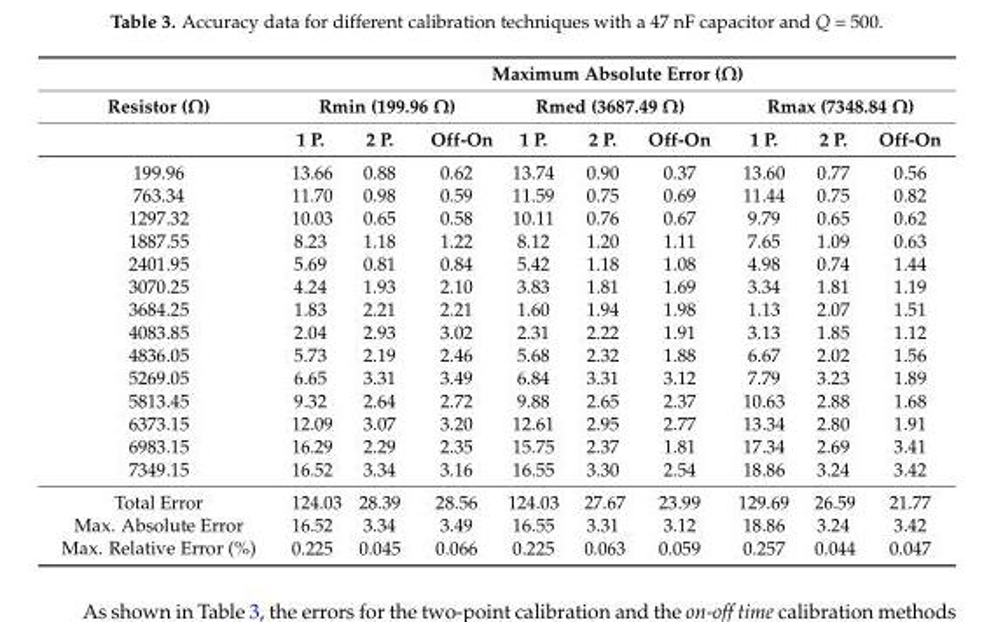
<table><thead><tr><td rowspan="3">Resistor (Ω)</td><td colspan="9">Maximum Absolute Error (Ω)</td></tr><tr><td colspan="3">Rmin (199.96 Ω)</td><td colspan="3">Rmed (3687.49 Ω)</td><td colspan="3">Rmax (7348.84 Ω)</td></tr><tr><td>1 P.</td><td>2 P.</td><td>Off-On</td><td>1 P.</td><td>2 P.</td><td>Off-On</td><td>1 P.</td><td>2 P.</td><td>Off-On</td></tr></thead><tbody><tr><td>199.96</td><td>13.66</td><td>0.88</td><td>0.62</td><td>13.74</td><td>0.90</td><td>0.37</td><td>13.60</td><td>0.77</td><td>0.56</td></tr><tr><td>763.34</td><td>11.70</td><td>0.98</td><td>0.59</td><td>11.59</td><td>0.75</td><td>0.69</td><td>11.44</td><td>0.75</td><td>0.82</td></tr><tr><td>1297.32</td><td>10.03</td><td>0.65</td><td>0.58</td><td>10.11</td><td>0.76</td><td>0.67</td><td>9.79</td><td>0.65</td><td>0.62</td></tr><tr><td>1887.55</td><td>8.23</td><td>1.18</td><td>1.22</td><td>8.12</td><td>1.20</td><td>1.11</td><td>7.65</td><td>1.09</td><td>0.63</td></tr><tr><td>2401.95</td><td>5.69</td><td>0.81</td><td>0.84</td><td>5.42</td><td>1.18</td><td>1.08</td><td>4.98</td><td>0.74</td><td>1.44</td></tr><tr><td>3070.25</td><td>4.24</td><td>1.93</td><td>2.10</td><td>3.83</td><td>1.81</td><td>1.69</td><td>3.34</td><td>1.81</td><td>1.19</td></tr><tr><td>3684.25</td><td>1.83</td><td>2.21</td><td>2.21</td><td>1.60</td><td>1.94</td><td>1.98</td><td>1.13</td><td>2.07</td><td>1.51</td></tr><tr><td>4083.85</td><td>2.04</td><td>2.93</td><td>3.02</td><td>2.31</td><td>2.22</td><td>1.91</td><td>3.13</td><td>1.85</td><td>1.12</td></tr><tr><td>4836.05</td><td>5.73</td><td>2.19</td><td>2.46</td><td>5.68</td><td>2.32</td><td>1.88</td><td>6.67</td><td>2.02</td><td>1.56</td></tr><tr><td>5269.05</td><td>6.65</td><td>3.31</td><td>3.49</td><td>6.84</td><td>3.31</td><td>3.12</td><td>7.79</td><td>3.23</td><td>1.89</td></tr><tr><td>5813.45</td><td>9.32</td><td>2.64</td><td>2.72</td><td>9.88</td><td>2.65</td><td>2.37</td><td>10.63</td><td>2.88</td><td>1.68</td></tr><tr><td>6373.15</td><td>12.09</td><td>3.07</td><td>3.20</td><td>12.61</td><td>2.95</td><td>2.77</td><td>13.34</td><td>2.80</td><td>1.91</td></tr><tr><td>6983.15</td><td>16.29</td><td>2.29</td><td>2.35</td><td>15.75</td><td>2.37</td><td>1.81</td><td>17.34</td><td>2.69</td><td>3.41</td></tr><tr><td>7349.15</td><td>16.52</td><td>3.34</td><td>3.16</td><td>16.55</td><td>3.30</td><td>2.54</td><td>18.86</td><td>3.24</td><td>3.42</td></tr><tr><td>Total Error</td><td>124.03</td><td>28.39</td><td>28.56</td><td>124.03</td><td>27.67</td><td>23.99</td><td>129.69</td><td>26.59</td><td>21.77</td></tr><tr><td>Max. Absolute Error</td><td>16.52</td><td>3.34</td><td>3.49</td><td>16.55</td><td>3.31</td><td>3.12</td><td>18.86</td><td>3.24</td><td>3.42</td></tr><tr><td>Max. Relative Error (%)</td><td>0.225</td><td>0.045</td><td>0.066</td><td>0.225</td><td>0.063</td><td>0.059</td><td>0.257</td><td>0.044</td><td>0.047</td></tr></tbody></table>